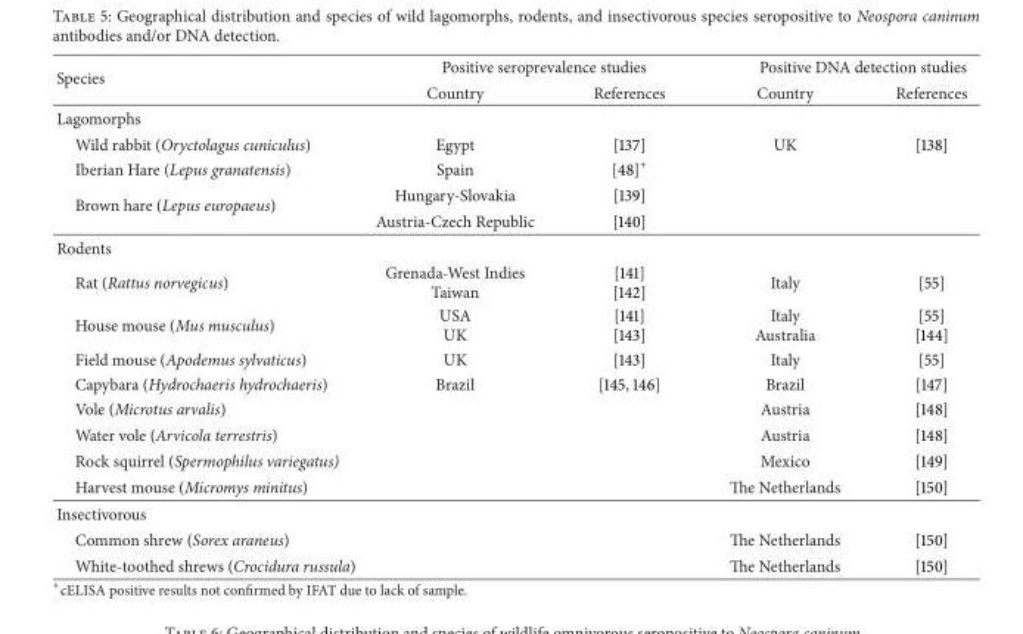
<table><thead><tr><td rowspan="2">Species</td><td colspan="2">Positive seroprevalence studies</td><td colspan="2">Positive DNA detection studies</td></tr><tr><td>Country</td><td>References</td><td>Country</td><td>References</td></tr></thead><tbody><tr><td colspan="5">Lagomorphs</td></tr><tr><td>Wild rabbit (Oryctolagus cuniculus)</td><td>Egypt</td><td>[137]</td><td>UK</td><td>[138]</td></tr><tr><td>Iberian Hare (Lepus granatensis)</td><td>Spain</td><td>[48]<sup>+</sup></td><td></td><td></td></tr><tr><td rowspan="2">Brown hare (Lepus europaeus)</td><td>Hungary-Slovakia</td><td>[139]</td><td></td><td></td></tr><tr><td>Austria-Czech Republic</td><td>[140]</td><td></td><td></td></tr><tr><td colspan="5">Rodents</td></tr><tr><td>Rat (Rattus norvegicus)</td><td>Grenada-West Indies Taiwan</td><td>[141] [142]</td><td>Italy</td><td>[55]</td></tr><tr><td>House mouse (Mus musculus)</td><td>USA UK</td><td>[141] [143]</td><td>Italy Australia</td><td>[55] [144]</td></tr><tr><td>Field mouse (Apodemus sylvaticus)</td><td>UK</td><td>[143]</td><td>Italy</td><td>[55]</td></tr><tr><td>Capybara (Hydrochaeris hydrochaeris)</td><td>Brazil</td><td>[145, 146]</td><td>Brazil</td><td>[147]</td></tr><tr><td>Vole (Microtus arvalis)</td><td></td><td></td><td>Austria</td><td>[148]</td></tr><tr><td>Water vole (Arvicola terrestris)</td><td></td><td></td><td>Austria</td><td>[148]</td></tr><tr><td>Rock squirrel (Spermophilus variegatus)</td><td></td><td></td><td>Mexico</td><td>[149]</td></tr><tr><td>Harvest mouse (Micromys minitus)</td><td></td><td></td><td>The Netherlands</td><td>[150]</td></tr><tr><td colspan="5">Insectivorous</td></tr><tr><td>Common shrew (Sorex araneus)</td><td></td><td></td><td>The Netherlands</td><td>[150]</td></tr><tr><td>White-toothed shrews (Crocidura russula)</td><td></td><td></td><td>The Netherlands</td><td>[150]</td></tr></tbody></table>